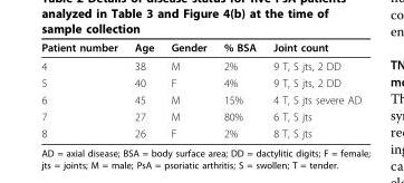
<table><thead><tr><td>Patient number</td><td>Age</td><td>Gender</td><td>% BSA</td><td>Joint count</td></tr></thead><tbody><tr><td>4</td><td>38</td><td>M</td><td>2%</td><td>9 T, S jts, 2 DD</td></tr><tr><td>5</td><td>40</td><td>F</td><td>4%</td><td>9 T, S jts, 2 DD</td></tr><tr><td>6</td><td>45</td><td>M</td><td>15%</td><td>4 T, S jts severe AD</td></tr><tr><td>7</td><td>27</td><td>M</td><td>80%</td><td>6 T, S jts</td></tr><tr><td>8</td><td>26</td><td>F</td><td>2%</td><td>8 T, S jts</td></tr></tbody></table>